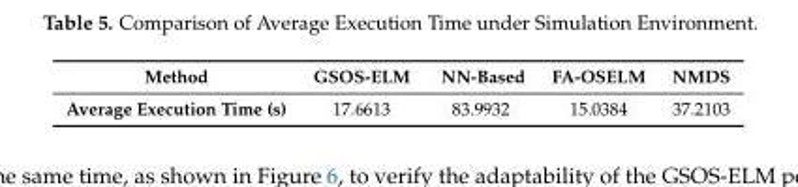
<table><thead><tr><td>Method</td><td>GSOS-ELM</td><td>NN-Based</td><td>FA-OSELM</td><td>NMDS</td></tr></thead><tbody><tr><td>Average Execution Time (s)</td><td>17.6613</td><td>83.9932</td><td>15.0384</td><td>37.2103</td></tr></tbody></table>